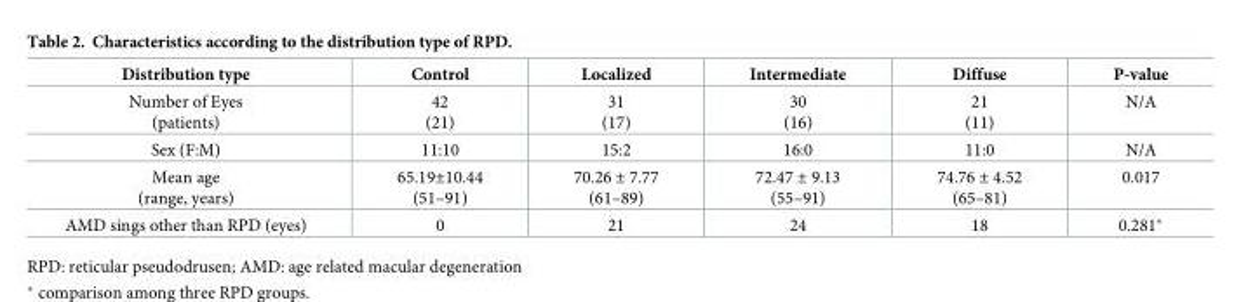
<table><thead><tr><td>Distribution type</td><td>Control</td><td>Localized</td><td>Intermediate</td><td>Diffuse</td><td>P-value</td></tr></thead><tbody><tr><td>Number of Eyes (patients)</td><td>42 (21)</td><td>31 (17)</td><td>30 (16)</td><td>21 (11)</td><td>N/A</td></tr><tr><td>Sex (F:M)</td><td>11:10</td><td>15:2</td><td>16:0</td><td>11:0</td><td>N/A</td></tr><tr><td>Mean age (range, years)</td><td>65.19±10.44 (51–91)</td><td>70.26 ± 7.77 (61–89)</td><td>72.47 ± 9.13 (55–91)</td><td>74.76 ± 4.52 (65–81)</td><td>0.017</td></tr><tr><td>AMD sings other than RPD (eyes)</td><td>0</td><td>21</td><td>24</td><td>18</td><td>0.281*</td></tr></tbody></table>